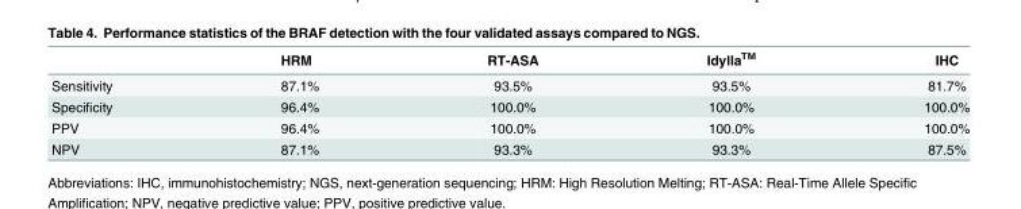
<table><thead><tr><td></td><td>HRM</td><td>RT-ASA</td><td>Idylla<sup>TM</sup></td><td>IHC</td></tr></thead><tbody><tr><td>Sensitivity</td><td>87.1%</td><td>93.5%</td><td>93.5%</td><td>81.7%</td></tr><tr><td>Specificity</td><td>96.4%</td><td>100.0%</td><td>100.0%</td><td>100.0%</td></tr><tr><td>PPV</td><td>96.4%</td><td>100.0%</td><td>100.0%</td><td>100.0%</td></tr><tr><td>NPV</td><td>87.1%</td><td>93.3%</td><td>93.3%</td><td>87.5%</td></tr></tbody></table>